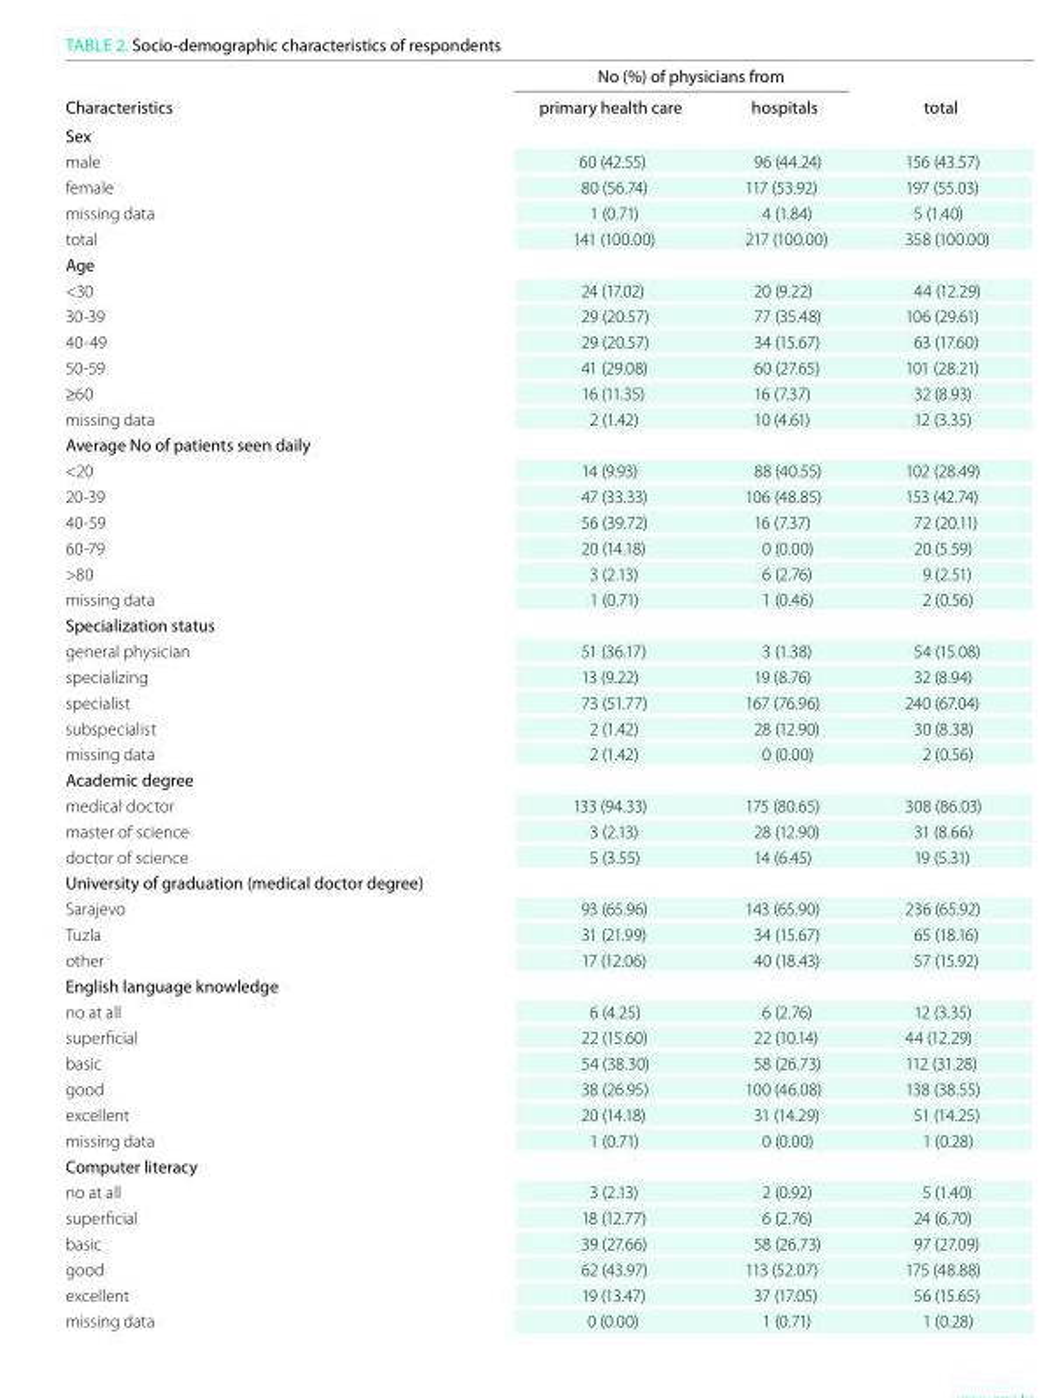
<table><thead><tr><td rowspan="2">Characteristics</td><td colspan="2">No (%) of physicians from</td><td rowspan="2">total</td></tr><tr><td>primary health care</td><td>hospitals</td></tr></thead><tbody><tr><td colspan="4">Sex</td></tr><tr><td>male</td><td>60 (42.55)</td><td>96 (44.24)</td><td>156 (43.57)</td></tr><tr><td>female</td><td>80 (56.74)</td><td>117 (53.92)</td><td>197 (55.03)</td></tr><tr><td>missing data</td><td>1 (0.71)</td><td>4 (1.84)</td><td>5 (1.40)</td></tr><tr><td>total</td><td>141 (100.00)</td><td>217 (100.00)</td><td>358 (100.00)</td></tr><tr><td colspan="4">Age</td></tr><tr><td>&lt;30</td><td>24 (17.02)</td><td>20 (9.22)</td><td>44 (12.29)</td></tr><tr><td>30-39</td><td>29 (20.57)</td><td>77 (35.48)</td><td>106 (29.61)</td></tr><tr><td>40-49</td><td>29 (20.57)</td><td>34 (15.67)</td><td>63 (17.60)</td></tr><tr><td>50-59</td><td>41 (29.08)</td><td>60 (27.65)</td><td>101 (28.21)</td></tr><tr><td>≥60</td><td>16 (11.35)</td><td>16 (7.37)</td><td>32 (8.93)</td></tr><tr><td>missing data</td><td>2 (1.42)</td><td>10 (4.61)</td><td>12 (3.35)</td></tr><tr><td colspan="4">Average No of patients seen daily</td></tr><tr><td>&lt;20</td><td>14 (9.93)</td><td>88 (40.55)</td><td>102 (28.49)</td></tr><tr><td>20-39</td><td>47 (33.33)</td><td>106 (48.85)</td><td>153 (42.74)</td></tr><tr><td>40-59</td><td>56 (39.72)</td><td>16 (7.37)</td><td>72 (20.11)</td></tr><tr><td>60-79</td><td>20 (14.18)</td><td>0 (0.00)</td><td>20 (5.59)</td></tr><tr><td>&gt;80</td><td>3 (2.13)</td><td>6 (2.76)</td><td>9 (2.51)</td></tr><tr><td>missing data</td><td>1 (0.71)</td><td>1 (0.46)</td><td>2 (0.56)</td></tr><tr><td colspan="4">Specialization status</td></tr><tr><td>general physician</td><td>51 (36.17)</td><td>3 (1.38)</td><td>54 (15.08)</td></tr><tr><td>specializing</td><td>13 (9.22)</td><td>19 (8.76)</td><td>32 (8.94)</td></tr><tr><td>specialist</td><td>73 (51.77)</td><td>167 (76.96)</td><td>240 (67.04)</td></tr><tr><td>subspecialist</td><td>2 (1.42)</td><td>28 (12.90)</td><td>30 (8.38)</td></tr><tr><td>missing data</td><td>2 (1.42)</td><td>0 (0.00)</td><td>2 (0.56)</td></tr><tr><td colspan="4">Academic degree</td></tr><tr><td>medical doctor</td><td>133 (94.33)</td><td>175 (80.65)</td><td>308 (86.03)</td></tr><tr><td>master of science</td><td>3 (2.13)</td><td>28 (12.90)</td><td>31 (8.66)</td></tr><tr><td>doctor of science</td><td>5 (3.55)</td><td>14 (6.45)</td><td>19 (5.31)</td></tr><tr><td colspan="4">university of graduation (medical doctor degree)</td></tr><tr><td>Sarajevo</td><td>93 (65.96)</td><td>143 (65.90)</td><td>236 (65.92)</td></tr><tr><td>Tuzla</td><td>31 (21.99)</td><td>34 (15.67)</td><td>65 (18.16)</td></tr><tr><td>other</td><td>17 (12.06)</td><td>40 (18.43)</td><td>57 (15.92)</td></tr><tr><td colspan="4">English language knowledge</td></tr><tr><td>no at all</td><td>6 (4.25)</td><td>6 (2.76)</td><td>12 (3.35)</td></tr><tr><td>superficial</td><td>22 (15.60)</td><td>22 (10.14)</td><td>44 (12.29)</td></tr><tr><td>basic</td><td>54 (38.30)</td><td>58 (26.73)</td><td>112 (31.28)</td></tr><tr><td>good</td><td>38 (26.95)</td><td>100 (46.08)</td><td>138 (38.55)</td></tr><tr><td>excellent</td><td>20 (14.18)</td><td>31 (14.29)</td><td>51 (14.25)</td></tr><tr><td>missing data</td><td>1 (0.71)</td><td>0 (0.00)</td><td>1 (0.28)</td></tr><tr><td colspan="4">Computer literacy</td></tr><tr><td>no at all</td><td>3 (2.13)</td><td>2 (0.92)</td><td>5 (1.40)</td></tr><tr><td>superficial</td><td>18 (12.77)</td><td>6 (2.76)</td><td>24 (6.70)</td></tr><tr><td>basic</td><td>39 (27.66)</td><td>58 (26.73)</td><td>97 (27.09)</td></tr><tr><td>good</td><td>62 (43.97)</td><td>113 (52.07)</td><td>175 (48.88)</td></tr><tr><td>excellent</td><td>19 (13.47)</td><td>37 (17.05)</td><td>56 (15.65)</td></tr><tr><td>missing data</td><td>0 (0.00)</td><td>1 (0.71)</td><td>1 (0.28)</td></tr></tbody></table>